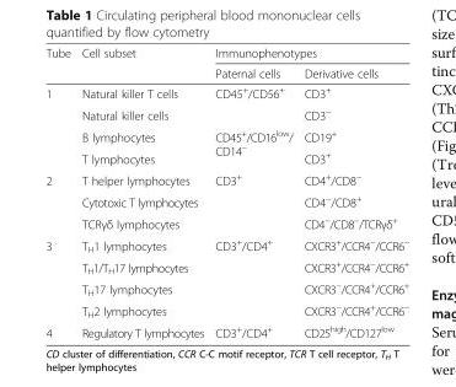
<table><thead><tr><td rowspan="2">Tube</td><td rowspan="2">Cell subset</td><td colspan="2">Immunophenotypes</td></tr><tr><td>Paternal cells</td><td>Derivative cells</td></tr></thead><tbody><tr><td rowspan="4">1</td><td>Natural killer T cells</td><td rowspan="2">CD45<sup>+</sup>/CD56<sup>+</sup></td><td>CD3<sup>+</sup></td></tr><tr><td>Natural killer cells</td><td>CD3<sup>−</sup></td></tr><tr><td>B lymphocytes</td><td rowspan="2">CD45<sup>+</sup>/CD16<sup>low</sup>/ CD14<sup>−</sup></td><td>CD19<sup>+</sup></td></tr><tr><td>T lymphocytes</td><td>CD3<sup>+</sup></td></tr><tr><td rowspan="3">2</td><td>T helper lymphocytes</td><td rowspan="3">CD3<sup>+</sup></td><td>CD4<sup>+</sup>/CD8<sup>−</sup></td></tr><tr><td>Cytotoxic T lymphocytes</td><td>CD4<sup>−</sup>/CD8<sup>+</sup></td></tr><tr><td>TCRγδ lymphocytes</td><td>CD4<sup>−</sup>/CD8<sup>−</sup>/TCRγδ<sup>+</sup></td></tr><tr><td rowspan="4">3</td><td>T<sub>H</sub>1 lymphocytes</td><td rowspan="4">CD3<sup>+</sup>/CD4<sup>+</sup></td><td>CXCR3<sup>+</sup>/CCR4<sup>−</sup>/CCR6<sup>−</sup></td></tr><tr><td>T<sub>H</sub>1/T<sub>H</sub>17 lymphocytes</td><td>CXCR3<sup>+</sup>/CCR4<sup>−</sup>/CCR6<sup>+</sup></td></tr><tr><td>T<sub>H</sub>17 lymphocytes</td><td>CXCR3<sup>−</sup>/CCR4<sup>+</sup>/CCR6<sup>+</sup></td></tr><tr><td>T<sub>H</sub>2 lymphocytes</td><td>CXCR3<sup>−</sup>/CCR4<sup>+</sup>/CCR6<sup>−</sup></td></tr><tr><td>4</td><td>Regulatory T lymphocytes</td><td>CD3<sup>+</sup>/CD4<sup>+</sup></td><td>CD25<sup>high</sup>/CD127<sup>low</sup></td></tr></tbody></table>